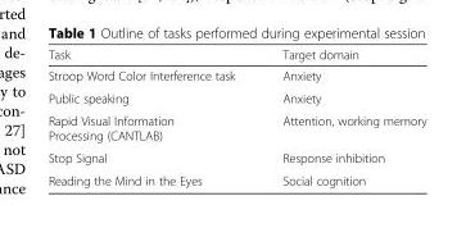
<table><thead><tr><td>Task</td><td>Target domain</td></tr></thead><tbody><tr><td>Stroop Word Color Interference task</td><td>Anxiety</td></tr><tr><td>Public speaking</td><td>Anxiety</td></tr><tr><td>Rapid Visual Information Processing (CANTLAB)</td><td>Attention, working memory</td></tr><tr><td>Stop Signal</td><td>Response inhibition</td></tr><tr><td>Reading the Mind in the Eyes</td><td>Social cognition</td></tr></tbody></table>